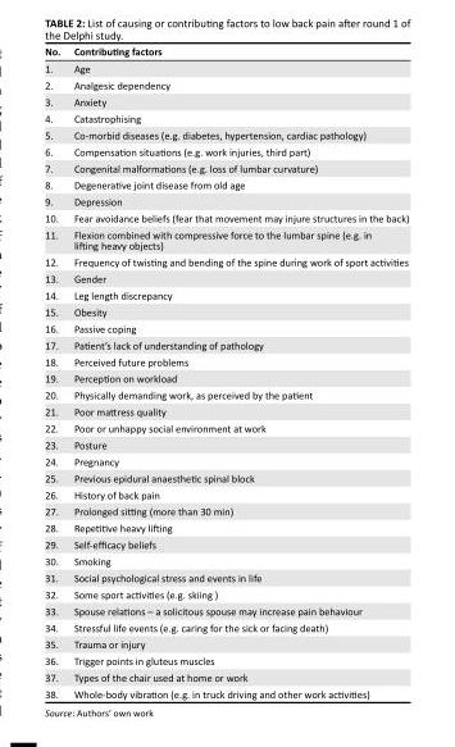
<table><thead><tr><td>No.</td><td>Contributing factors</td></tr></thead><tbody><tr><td>1.</td><td>Age</td></tr><tr><td>2.</td><td>Analgesic dependency</td></tr><tr><td>3.</td><td>Anxiety</td></tr><tr><td>4.</td><td>Catastrophising</td></tr><tr><td>5.</td><td>Co-morbid diseases (e.g. diabetes, hypertension, cardiac pathology)</td></tr><tr><td>6.</td><td>Compensation situations (e.g. work injuries, third part)</td></tr><tr><td>7.</td><td>Congenital malformations (e.g. loss of lumbar curvature)</td></tr><tr><td>8.</td><td>Degenerative joint disease from old age</td></tr><tr><td>9.</td><td>Depression</td></tr><tr><td>10.</td><td>Fear avoidance beliefs (fear that movement may injure structures in the back)</td></tr><tr><td>11.</td><td>Flexion combined with compressive force to the lumbar spine (e.g. in lifting heavy objects)</td></tr><tr><td>12.</td><td>Frequency of twisting and bending of the spine during work of sport activities</td></tr><tr><td>13.</td><td>Gender</td></tr><tr><td>14.</td><td>Leg length discrepancy</td></tr><tr><td>15.</td><td>Obesity</td></tr><tr><td>16.</td><td>Passive coping</td></tr><tr><td>17.</td><td>Patient’s lack of understanding of pathology</td></tr><tr><td>18.</td><td>Perceived future problems</td></tr><tr><td>19.</td><td>Perception on workload</td></tr><tr><td>20.</td><td>Physically demanding work, as perceived by the patient</td></tr><tr><td>21.</td><td>Poor mattress quality</td></tr><tr><td>22.</td><td>Poor or unhappy social environment at work</td></tr><tr><td>23.</td><td>Posture</td></tr><tr><td>24.</td><td>Pregnancy</td></tr><tr><td>25.</td><td>Previous epidural anaesthetic spinal block</td></tr><tr><td>26.</td><td>History of back pain</td></tr><tr><td>27.</td><td>Prolonged sitting (more than 30 min)</td></tr><tr><td>28.</td><td>Repetitive heavy lifting</td></tr><tr><td>29.</td><td>Self-efficacy beliefs</td></tr><tr><td>30.</td><td>Smoking</td></tr><tr><td>31.</td><td>Social psychological stress and events in life</td></tr><tr><td>32.</td><td>Some sport activities (e.g. skiing )</td></tr><tr><td>33.</td><td>Spouse relations – a solicitous spouse may increase pain behaviour</td></tr><tr><td>34.</td><td>Stressful life events (e.g. caring for the sick or facing death)</td></tr><tr><td>35.</td><td>Trauma or injury</td></tr><tr><td>36.</td><td>Trigger points in gluteus muscles</td></tr><tr><td>37.</td><td>Types of the chair used at home or work</td></tr><tr><td>38.</td><td>Whole-body vibration (e.g. in truck driving and other work activities)</td></tr></tbody></table>